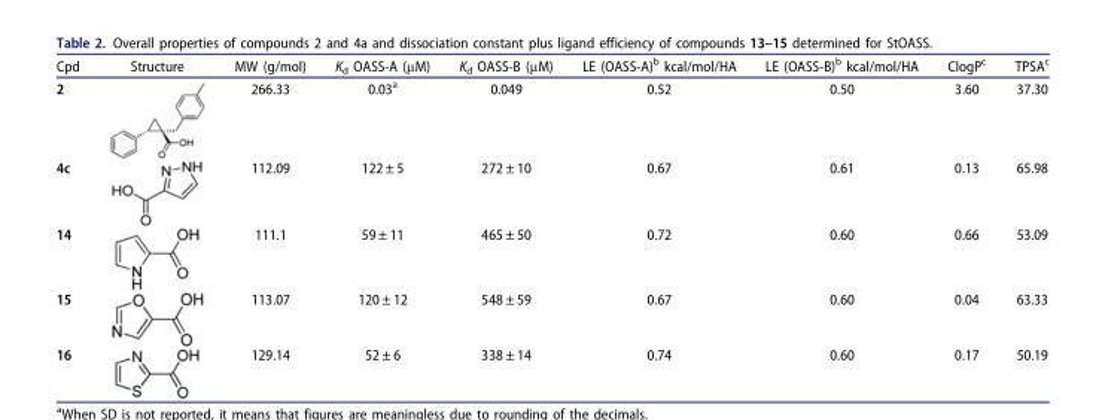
<table><thead><tr><td>Cpd</td><td>Structure</td><td>MW (g/mol)</td><td>K<sub>d</sub> OASS-A (µM)</td><td>K<sub>d</sub> OASS-B (µM)</td><td>LE (OASS-A)<sup>b</sup> kcal/mol/HA</td><td>LE (OASS-B)<sup>b</sup> kcal/mol/HA</td><td>ClogP<sup>c</sup></td><td>TPSA<sup>c</sup></td></tr></thead><tbody><tr><td>2</td><td></td><td>266.33</td><td>0.03<sup>a</sup></td><td>0.049</td><td>0.52</td><td>0.50</td><td>3.60</td><td>37.30</td></tr><tr><td>4c</td><td></td><td>112.09</td><td>122 ± 5</td><td>272 ± 10</td><td>0.67</td><td>0.61</td><td>0.13</td><td>65.98</td></tr><tr><td>14</td><td></td><td>111.1</td><td>59 ± 11</td><td>465 ± 50</td><td>0.72</td><td>0.60</td><td>0.66</td><td>53.09</td></tr><tr><td>15</td><td></td><td>113.07</td><td>120 ± 12</td><td>548 ± 59</td><td>0.67</td><td>0.60</td><td>0.04</td><td>63.33</td></tr><tr><td>16</td><td></td><td>129.14</td><td>52 ± 6</td><td>338 ± 14</td><td>0.74</td><td>0.60</td><td>0.17</td><td>50.19</td></tr></tbody></table>